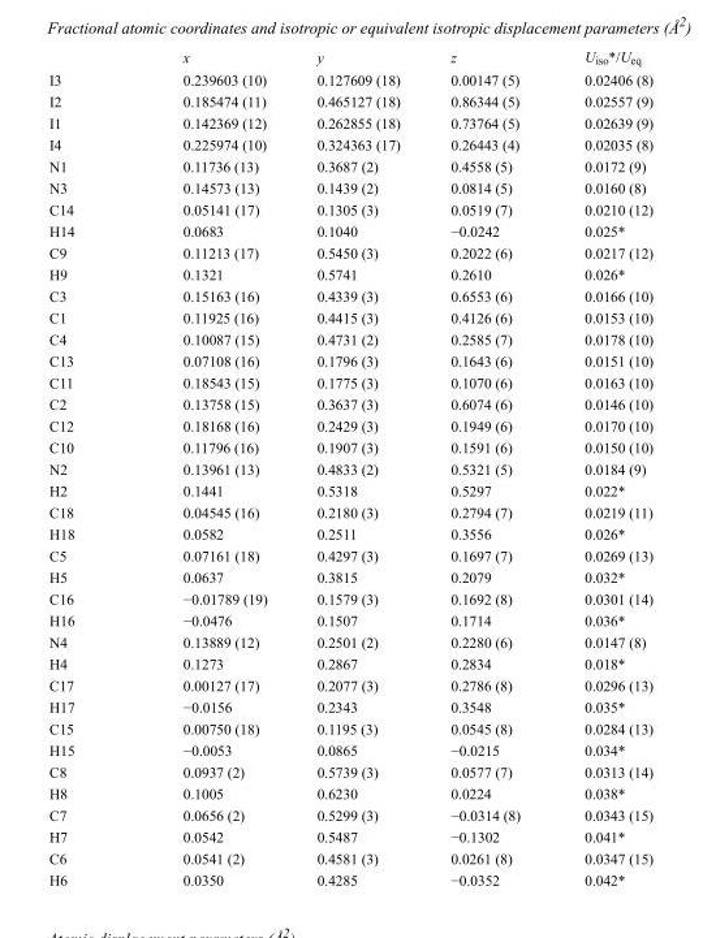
<table><thead><tr><td></td><td>x</td><td>y</td><td>z</td><td>U<sub>iso</sub>*/U<sub>eq</sub></td></tr></thead><tbody><tr><td>I3</td><td>0.239603 (10)</td><td>0.127609 (18)</td><td>0.00147 (5)</td><td>0.02406 (8)</td></tr><tr><td>I2</td><td>0.185474 (11)</td><td>0.465127 (18)</td><td>0.86344 (5)</td><td>0.02557 (9)</td></tr><tr><td>I1</td><td>0.142369 (12)</td><td>0.262855 (18)</td><td>0.73764 (5)</td><td>0.02639 (9)</td></tr><tr><td>I4</td><td>0.225974 (10)</td><td>0.324363 (17)</td><td>0.26443 (4)</td><td>0.02035 (8)</td></tr><tr><td>N1</td><td>0.11736 (13)</td><td>0.3687 (2)</td><td>0.4558 (5)</td><td>0.0172 (9)</td></tr><tr><td>N3</td><td>0.14573 (13)</td><td>0.1439 (2)</td><td>0.0814 (5)</td><td>0.0160 (8)</td></tr><tr><td>C14</td><td>0.05141 (17)</td><td>0.1305 (3)</td><td>0.0519 (7)</td><td>0.0210 (12)</td></tr><tr><td>H14</td><td>0.0683</td><td>0.1040</td><td>−0.0242</td><td>0.025*</td></tr><tr><td>C9</td><td>0.11213 (17)</td><td>0.5450 (3)</td><td>0.2022 (6)</td><td>0.0217 (12)</td></tr><tr><td>H9</td><td>0.1321</td><td>0.5741</td><td>0.2610</td><td>0.026*</td></tr><tr><td>C3</td><td>0.15163 (16)</td><td>0.4339 (3)</td><td>0.6553 (6)</td><td>0.0166 (10)</td></tr><tr><td>C1</td><td>0.11925 (16)</td><td>0.4415 (3)</td><td>0.4126 (6)</td><td>0.0153 (10)</td></tr><tr><td>C4</td><td>0.10087 (15)</td><td>0.4731 (2)</td><td>0.2585 (7)</td><td>0.0178 (10)</td></tr><tr><td>C13</td><td>0.07108 (16)</td><td>0.1796 (3)</td><td>0.1643 (6)</td><td>0.0151 (10)</td></tr><tr><td>C11</td><td>0.18543 (15)</td><td>0.1775 (3)</td><td>0.1070 (6)</td><td>0.0163 (10)</td></tr><tr><td>C2</td><td>0.13758 (15)</td><td>0.3637 (3)</td><td>0.6074 (6)</td><td>0.0146 (10)</td></tr><tr><td>C12</td><td>0.18168 (16)</td><td>0.2429 (3)</td><td>0.1949 (6)</td><td>0.0170 (10)</td></tr><tr><td>C10</td><td>0.11796 (16)</td><td>0.1907 (3)</td><td>0.1591 (6)</td><td>0.0150 (10)</td></tr><tr><td>N2</td><td>0.13961 (13)</td><td>0.4833 (2)</td><td>0.5321 (5)</td><td>0.0184 (9)</td></tr><tr><td>H2</td><td>0.1441</td><td>0.5318</td><td>0.5297</td><td>0.022*</td></tr><tr><td>C18</td><td>0.04545 (16)</td><td>0.2180 (3)</td><td>0.2794 (7)</td><td>0.0219 (11)</td></tr><tr><td>H18</td><td>0.0582</td><td>0.2511</td><td>0.3556</td><td>0.026*</td></tr><tr><td>C5</td><td>0.07161 (18)</td><td>0.4297 (3)</td><td>0.1697 (7)</td><td>0.0269 (13)</td></tr><tr><td>H5</td><td>0.0637</td><td>0.3815</td><td>0.2079</td><td>0.032*</td></tr><tr><td>C16</td><td>−0.01789 (19)</td><td>0.1579 (3)</td><td>0.1692 (8)</td><td>0.0301 (14)</td></tr><tr><td>H16</td><td>−0.0476</td><td>0.1507</td><td>0.1714</td><td>0.036*</td></tr><tr><td>N4</td><td>0.13889 (12)</td><td>0.2501 (2)</td><td>0.2280 (6)</td><td>0.0147 (8)</td></tr><tr><td>H4</td><td>0.1273</td><td>0.2867</td><td>0.2834</td><td>0.018*</td></tr><tr><td>C17</td><td>0.00127 (17)</td><td>0.2077 (3)</td><td>0.2786 (8)</td><td>0.0296 (13)</td></tr><tr><td>H17</td><td>−0.0156</td><td>0.2343</td><td>0.3548</td><td>0.035*</td></tr><tr><td>C15</td><td>0.00750 (18)</td><td>0.1195 (3)</td><td>0.0545 (8)</td><td>0.0284 (13)</td></tr><tr><td>H15</td><td>−0.0053</td><td>0.0865</td><td>−0.0215</td><td>0.034*</td></tr><tr><td>C8</td><td>0.0937 (2)</td><td>0.5739 (3)</td><td>0.0577 (7)</td><td>0.0313 (14)</td></tr><tr><td>H8</td><td>0.1005</td><td>0.6230</td><td>0.0224</td><td>0.038*</td></tr><tr><td>C7</td><td>0.0656 (2)</td><td>0.5299 (3)</td><td>−0.0314 (8)</td><td>0.0343 (15)</td></tr><tr><td>H7</td><td>0.0542</td><td>0.5487</td><td>−0.1302</td><td>0.041*</td></tr><tr><td>C6</td><td>0.0541 (2)</td><td>0.4581 (3)</td><td>0.0261 (8)</td><td>0.0347 (15)</td></tr><tr><td>H6</td><td>0.0350</td><td>0.4285</td><td>−0.0352</td><td>0.042*</td></tr></tbody></table>